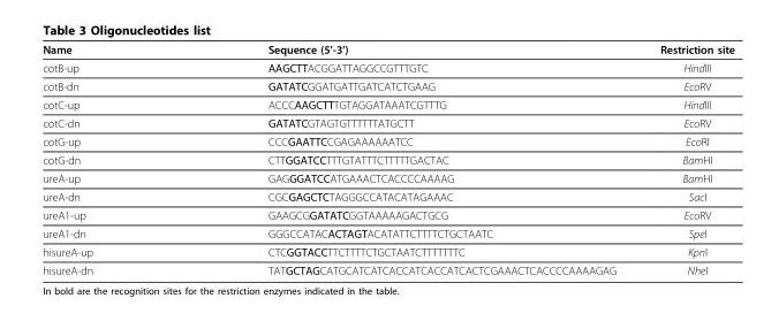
<table><thead><tr><td>Name</td><td>Sequence (5’-3’)</td><td>Restriction site</td></tr></thead><tbody><tr><td>cotB-up</td><td>AAGCTTACGGATTAGGCCGTTTGTC</td><td>HindIII</td></tr><tr><td>cotB-dn</td><td>GATATCGGATGATTGATCATCTGAAG</td><td>EcoRV</td></tr><tr><td>cotC-up</td><td>ACCCAAGCTTTGTAGGATAAATCGTTTG</td><td>HindIII</td></tr><tr><td>cotC-dn</td><td>GATATCGTAGTGTTTTTTATGCTT</td><td>EcoRV</td></tr><tr><td>cotG-up</td><td>CCCGAATTCCGAGAAAAAATCC</td><td>EcoRI</td></tr><tr><td>cotG-dn</td><td>CTTGGATCCTTTGTATTTCTTTTTGACTAC</td><td>BamHI</td></tr><tr><td>ureA-up</td><td>GAGGGATCCATGAAACTCACCCCAAAAG</td><td>BamHI</td></tr><tr><td>ureA-dn</td><td>CGCGAGCTCTAGGGCCATACATAGAAAC</td><td>SacI</td></tr><tr><td>ureA1-up</td><td>GAAGCGGATATCGGTAAAAAGACTGCG</td><td>EcoRV</td></tr><tr><td>ureA1-dn</td><td>GGGCCATACACTAGTACATATTCTTTTCTGCTAATC</td><td>SpeI</td></tr><tr><td>hisureA-up</td><td>CTCGGTACCTTCTTTTCTGCTAATCTTTTTTTC</td><td>KpnI</td></tr><tr><td>hisureA-dn</td><td>TATGCTAGCATGCATCATCACCATCACCATCACTCGAAACTCACCCCAAAAGAG</td><td>NheI</td></tr></tbody></table>